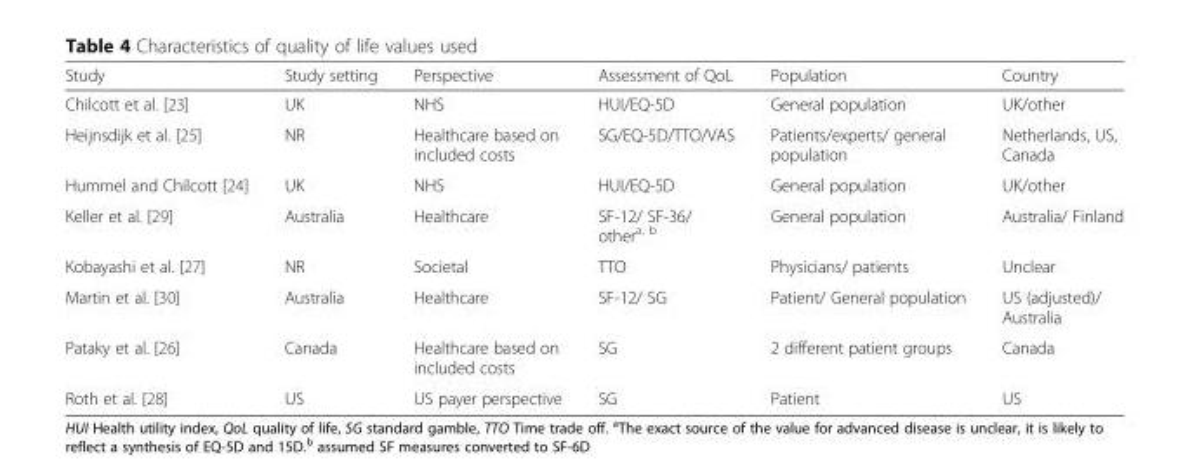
<table><thead><tr><td>Study</td><td>Study setting</td><td>Perspective</td><td>Assessment of QoL</td><td>Population</td><td>Country</td></tr></thead><tbody><tr><td>Chilcott et al. [23]</td><td>UK</td><td>NHS</td><td>HUI/EQ-5D</td><td>General population</td><td>UK/other</td></tr><tr><td>Heijnsdijk et al. [25]</td><td>NR</td><td>Healthcare based on included costs</td><td>SG/EQ-5D/TTO/VAS</td><td>Patients/experts/ general population</td><td>Netherlands, US, Canada</td></tr><tr><td>Hummel and Chilcott [24]</td><td>UK</td><td>NHS</td><td>HUI/EQ-5D</td><td>General population</td><td>UK/other</td></tr><tr><td>Keller et al. [29]</td><td>Australia</td><td>Healthcare</td><td>SF-12/ SF-36/ other<sup>a, b</sup></td><td>General population</td><td>Australia/ Finland</td></tr><tr><td>Kobayashi et al. [27]</td><td>NR</td><td>Societal</td><td>TTO</td><td>Physicians/ patients</td><td>Unclear</td></tr><tr><td>Martin et al. [30]</td><td>Australia</td><td>Healthcare</td><td>SF-12/ SG</td><td>Patient/ General population</td><td>US (adjusted)/ Australia</td></tr><tr><td>Pataky et al. [26]</td><td>Canada</td><td>Healthcare based on included costs</td><td>SG</td><td>2 different patient groups</td><td>Canada</td></tr><tr><td>Roth et al. [28]</td><td>US</td><td>US payer perspective</td><td>SG</td><td>Patient</td><td>US</td></tr></tbody></table>